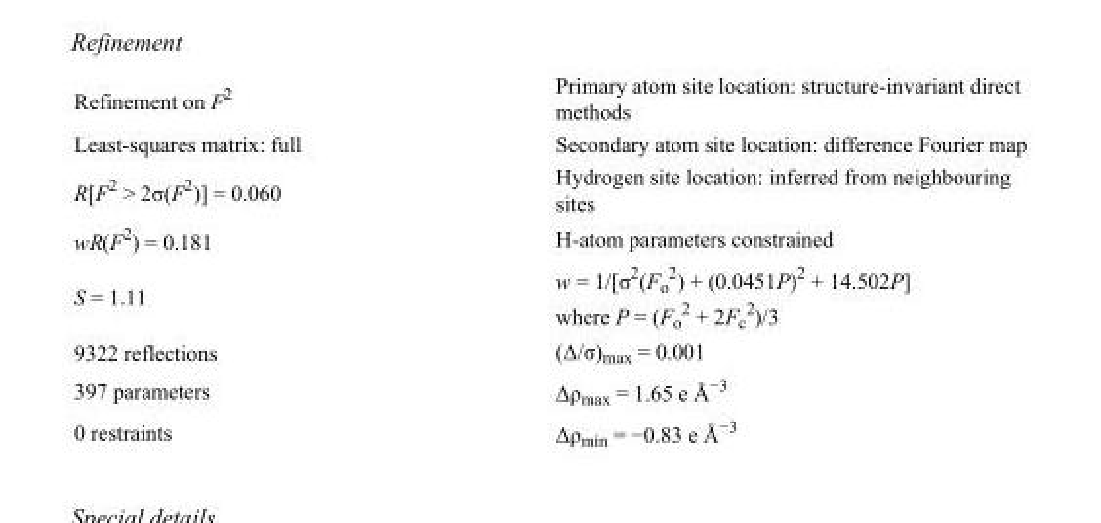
<table><tbody><tr><td>Refinement on F<sup>2</sup></td><td>Primary atom site location: structure-invariant direct methods</td></tr><tr><td>Least-squares matrix: full</td><td>Secondary atom site location: difference Fourier map</td></tr><tr><td>R[F<sup>2</sup> &gt; 2σ(F<sup>2</sup>)] = 0.060</td><td>Hydrogen site location: inferred from neighbouring sites</td></tr><tr><td>wR(F<sup>2</sup>) = 0.181</td><td>H-atom parameters constrained</td></tr><tr><td>S = 1.11</td><td>w = 1/[σ<sup>2</sup>(F<sub>o</sub> <sup>2</sup>) + (0.0451P)<sup>2</sup> + 14.502P] where P = (F<sub>o</sub> <sup>2</sup> + 2F<sub>c</sub> <sup>2</sup>)/3</td></tr><tr><td>9322 reflections</td><td>(Δ/σ)<sub>max</sub> = 0.001</td></tr><tr><td>397 parameters</td><td>Δρ<sub>max</sub> = 1.65 e Å<sup>−3</sup></td></tr><tr><td>0 restraints</td><td>Δρ<sub>min</sub> = −0.83 e Å<sup>−3</sup></td></tr></tbody></table>